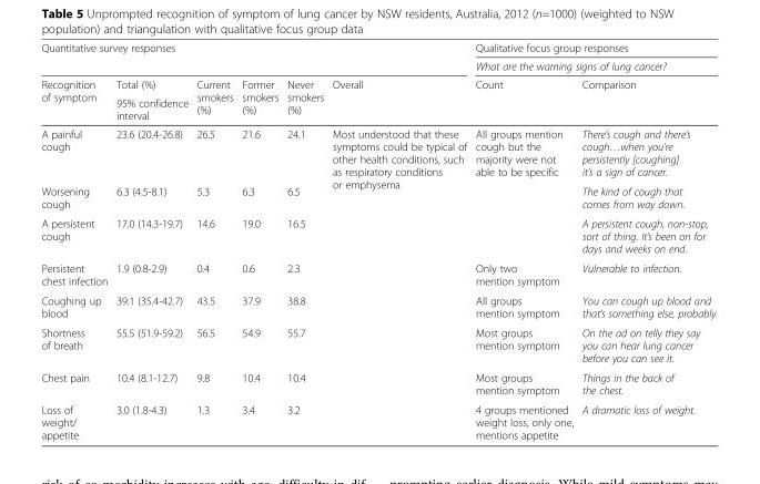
<table><thead><tr><td rowspan="2" colspan="6">Quantitative survey responses</td><td rowspan="2" colspan="2">Qualitative focus group responses What are the warning signs of lung cancer?</td></tr><tr></tr><tr><td rowspan="2">Recognition of symptom</td><td rowspan="2">Total (%) 95% confidence interval</td><td rowspan="2">Current smokers (%)</td><td rowspan="2">Former smokers (%)</td><td rowspan="2">Never smokers (%)</td><td rowspan="2">Overall</td><td rowspan="2">Count</td><td rowspan="2">Comparison</td></tr><tr></tr></thead><tbody><tr><td>A painful cough</td><td>23.6 (20.4-26.8)</td><td>26.5</td><td>21.6</td><td>24.1</td><td rowspan="8">Most understood that these symptoms could be typical of other health conditions, such as respiratory conditions or emphysema</td><td rowspan="3">All groups mention cough but the majority were not able to be specific</td><td>There’s cough and there’s cough…when you’re persistently [coughing] it’s a sign of cancer.</td></tr><tr><td>Worsening cough</td><td>6.3 (4.5-8.1)</td><td>5.3</td><td>6.3</td><td>6.5</td><td>The kind of cough that comes from way down.</td></tr><tr><td>A persistent cough</td><td>17.0 (14.3-19.7)</td><td>14.6</td><td>19.0</td><td>16.5</td><td>A persistent cough, non-stop, sort of thing. It’s been on for days and weeks on end.</td></tr><tr><td>Persistent chest infection</td><td>1.9 (0.8-2.9)</td><td>0.4</td><td>0.6</td><td>2.3</td><td>Only two mention symptom</td><td>Vulnerable to infection.</td></tr><tr><td>Coughing up blood</td><td>39.1 (35.4-42.7)</td><td>43.5</td><td>37.9</td><td>38.8</td><td>All groups mention symptom</td><td>You can cough up blood and that’s something else, probably.</td></tr><tr><td>Shortness of breath</td><td>55.5 (51.9-59.2)</td><td>56.5</td><td>54.9</td><td>55.7</td><td>Most groups mention symptom</td><td>On the ad on telly they say you can hear lung cancer before you can see it.</td></tr><tr><td>Chest pain</td><td>10.4 (8.1-12.7)</td><td>9.8</td><td>10.4</td><td>10.4</td><td>Most groups mention symptom</td><td>Things in the back of the chest.</td></tr><tr><td>Loss of weight/ appetite</td><td>3.0 (1.8-4.3)</td><td>1.3</td><td>3.4</td><td>3.2</td><td>4 groups mentioned weight loss, only one, mentions appetite</td><td>A dramatic loss of weight.</td></tr></tbody></table>